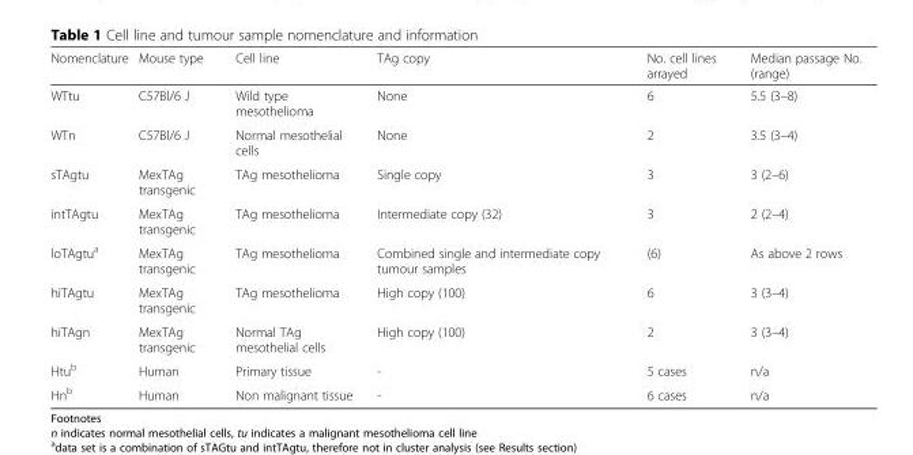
<table><thead><tr><td>Nomenclature</td><td>Mouse type</td><td>Cell line</td><td>TAg copy</td><td>No. cell lines arrayed</td><td>Median passage No. (range)</td></tr></thead><tbody><tr><td>WTtu</td><td>C57Bl/6 J</td><td>Wild type mesothelioma</td><td>None</td><td>6</td><td>5.5 (3–8)</td></tr><tr><td>WTn</td><td>C57Bl/6 J</td><td>Normal mesothelial cells</td><td>None</td><td>2</td><td>3.5 (3–4)</td></tr><tr><td>sTAgtu</td><td>MexTAg transgenic</td><td>TAg mesothelioma</td><td>Single copy</td><td>3</td><td>3 (2–6)</td></tr><tr><td>intTAgtu</td><td>MexTAg transgenic</td><td>TAg mesothelioma</td><td>Intermediate copy (32)</td><td>3</td><td>2 (2–4)</td></tr><tr><td>loTAgtu<sup>a</sup></td><td>MexTAg transgenic</td><td>TAg mesothelioma</td><td>Combined single and intermediate copy tumour samples</td><td>(6)</td><td>As above 2 rows</td></tr><tr><td>hiTAgtu</td><td>MexTAg transgenic</td><td>TAg mesothelioma</td><td>High copy (100)</td><td>6</td><td>3 (3–4)</td></tr><tr><td>hiTAgn</td><td>MexTAg transgenic</td><td>Normal TAg mesothelial cells</td><td>High copy (100)</td><td>2</td><td>3 (3–4)</td></tr><tr><td>Htu<sup>b</sup></td><td>Human</td><td>Primary tissue</td><td>-</td><td>5 cases</td><td>n/a</td></tr><tr><td>Hn<sup>b</sup></td><td>Human</td><td>Non malignant tissue</td><td>-</td><td>6 cases</td><td>n/a</td></tr></tbody></table>